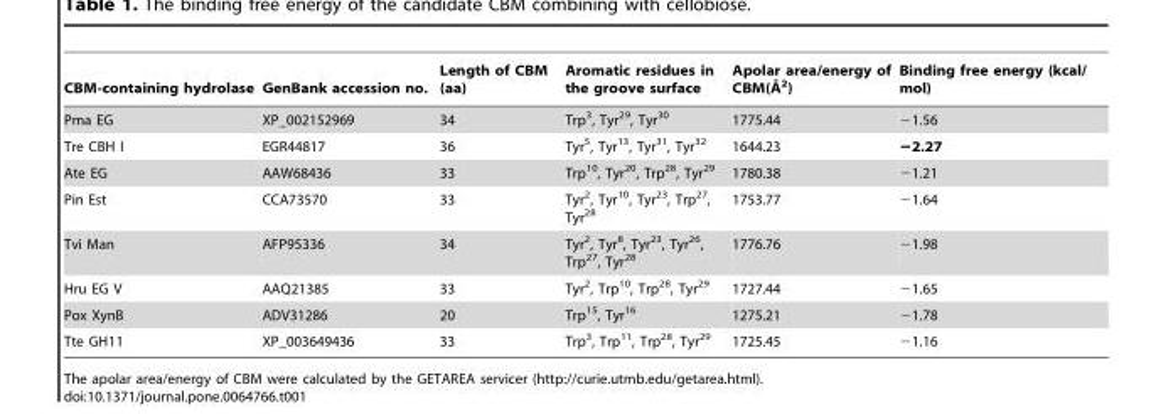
<table><thead><tr><td>CBM-containing hydrolase</td><td>GenBank accession no.</td><td>Length of CBM (aa)</td><td>Aromatic residues in the groove surface</td><td>Apolar area/energy of CBM(A˚ 2)</td><td>Binding free energy (kcal/ mol)</td></tr></thead><tbody><tr><td>Pma EG</td><td>XP_002152969</td><td>34</td><td>Trp<sup>3</sup>, Tyr<sup>29</sup>, Tyr<sup>30</sup></td><td>1775.44</td><td>−1.56</td></tr><tr><td>Tre CBH I</td><td>EGR44817</td><td>36</td><td>Tyr<sup>5</sup>, Tyr<sup>13</sup>, Tyr<sup>31</sup>, Tyr<sup>32</sup></td><td>1644.23</td><td>−2.27</td></tr><tr><td>Ate EG</td><td>AAW68436</td><td>33</td><td>Trp<sup>10</sup>, Tyr<sup>20</sup>, Trp<sup>28</sup>, Tyr<sup>29</sup></td><td>1780.38</td><td>−1.21</td></tr><tr><td>Pin Est</td><td>CCA73570</td><td>33</td><td>Tyr<sup>2</sup>, Tyr<sup>10</sup>, Tyr<sup>23</sup>, Trp<sup>27</sup>, Tyr<sup>28</sup></td><td>1753.77</td><td>−1.64</td></tr><tr><td>Tvi Man</td><td>AFP95336</td><td>34</td><td>Tyr<sup>2</sup>, Tyr<sup>8</sup>, Tyr<sup>23</sup>, Tyr<sup>26</sup>, Trp<sup>27</sup>, Tyr<sup>28</sup></td><td>1776.76</td><td>−1.98</td></tr><tr><td>Hru EG V</td><td>AAQ21385</td><td>33</td><td>Tyr<sup>2</sup>, Trp<sup>10</sup>, Trp<sup>28</sup>, Tyr<sup>29</sup></td><td>1727.44</td><td>−1.65</td></tr><tr><td>Pox XynB</td><td>ADV31286</td><td>20</td><td>Trp<sup>15</sup>, Tyr<sup>16</sup></td><td>1275.21</td><td>−1.78</td></tr><tr><td>Tte GH11</td><td>XP_003649436</td><td>33</td><td>Trp<sup>3</sup>, Trp<sup>11</sup>, Trp<sup>28</sup>, Tyr<sup>29</sup></td><td>1725.45</td><td>−1.16</td></tr></tbody></table>